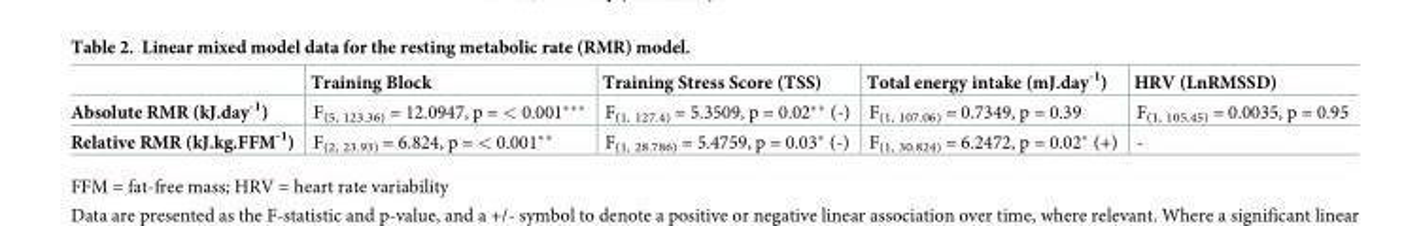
<table><thead><tr><td></td><td>Training Block</td><td>Training Stress Score (TSS)</td><td>Total energy intake (mJ.day<sup>-1</sup>)</td><td>HRV (LnRMSSD)</td></tr></thead><tbody><tr><td>Absolute RMR (kJ.day<sup>-1</sup>)</td><td>F<sub>(5, 123.36)</sub> = 12.0947, p = &lt; 0.001***</td><td>F<sub>(1, 127.4)</sub> = 5.3509, p = 0.02** (-)</td><td>F<sub>(1, 107.06)</sub> = 0.7349, p = 0.39</td><td>F<sub>(1, 105.45)</sub> = 0.0035, p = 0.95</td></tr><tr><td>Relative RMR (kJ.kg.FFM<sup>-1</sup>)</td><td>F<sub>(2, 23.93)</sub> = 6.824, p = &lt; 0.001**</td><td>F<sub>(1, 28.786)</sub> = 5.4759, p = 0.03* (-)</td><td>F<sub>(1, 30.824)</sub> = 6.2472, p = 0.02* (+)</td><td>-</td></tr></tbody></table>